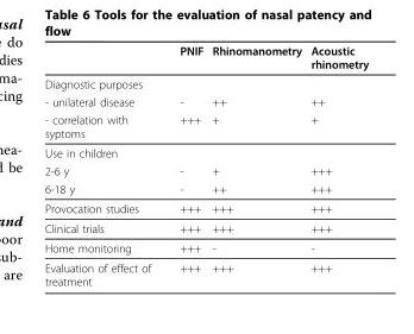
<table><thead><tr><td></td><td>PNIF</td><td>Rhinomanometry</td><td>Acoustic rhinometry</td></tr></thead><tbody><tr><td colspan="4">Diagnostic purposes</td></tr><tr><td>- unilateral disease</td><td>-</td><td>++</td><td>++</td></tr><tr><td>- correlation with syptoms</td><td>+++</td><td>+</td><td>+</td></tr><tr><td colspan="4">Use in children</td></tr><tr><td>2-6 y</td><td>-</td><td>+</td><td>+++</td></tr><tr><td>6-18 y</td><td>-</td><td>++</td><td>+++</td></tr><tr><td>Provocation studies</td><td>+++</td><td>+++</td><td>+++</td></tr><tr><td>Clinical trials</td><td>+++</td><td>+++</td><td>+++</td></tr><tr><td>Home monitoring</td><td>+++</td><td>-</td><td>-</td></tr><tr><td>Evaluation of effect of treatment</td><td>+++</td><td>+++</td><td>+++</td></tr></tbody></table>